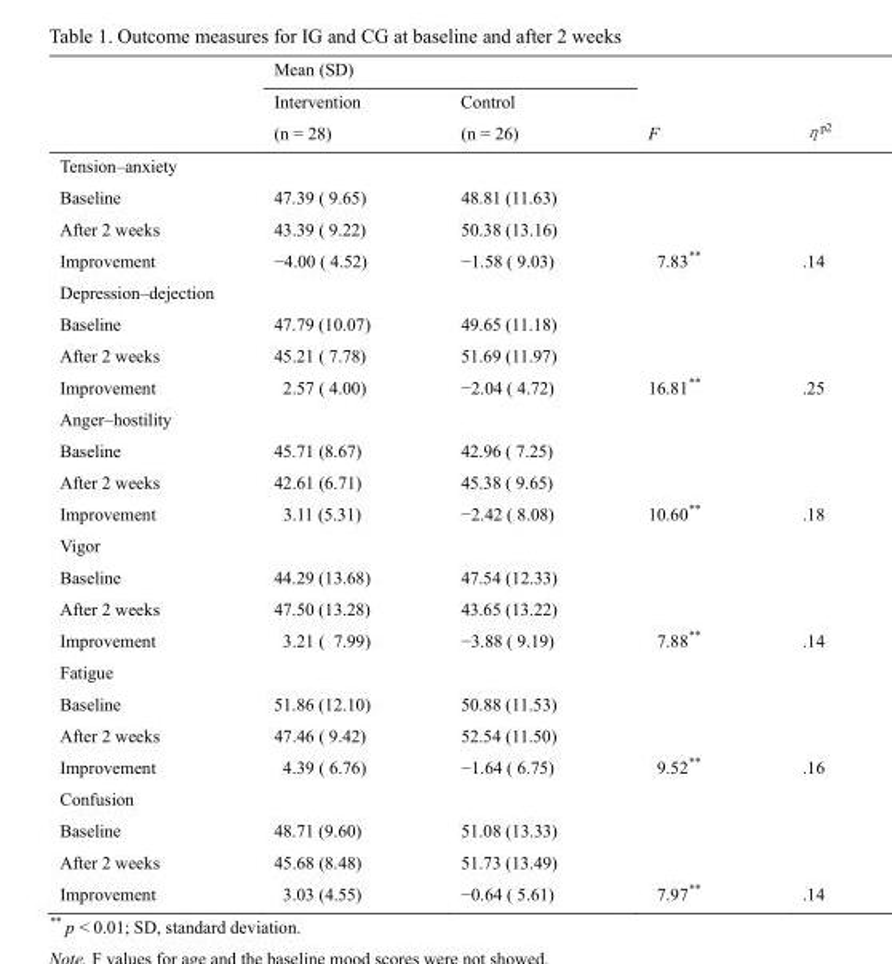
<table><thead><tr><td rowspan="2"></td><td colspan="2">Mean (SD)</td><td rowspan="2">F</td><td rowspan="2">η<sup>p2</sup></td></tr><tr><td>Intervention (n = 28)</td><td>Control (n = 26)</td></tr></thead><tbody><tr><td colspan="5">Tension–anxiety</td></tr><tr><td>Baseline</td><td>47.39 ( 9.65)</td><td>48.81 (11.63)</td><td></td><td></td></tr><tr><td>After 2 weeks</td><td>43.39 ( 9.22)</td><td>50.38 (13.16)</td><td></td><td></td></tr><tr><td>Improvement</td><td>−4.00 ( 4.52)</td><td>−1.58 ( 9.03)</td><td>7.83**</td><td>.14</td></tr><tr><td colspan="5">Depression–dejection</td></tr><tr><td>Baseline</td><td>47.79 (10.07)</td><td>49.65 (11.18)</td><td></td><td></td></tr><tr><td>After 2 weeks</td><td>45.21 ( 7.78)</td><td>51.69 (11.97)</td><td></td><td></td></tr><tr><td>Improvement</td><td>2.57 ( 4.00)</td><td>−2.04 ( 4.72)</td><td>16.81**</td><td>.25</td></tr><tr><td colspan="5">Anger–hostility</td></tr><tr><td>Baseline</td><td>45.71 (8.67)</td><td>42.96 ( 7.25)</td><td></td><td></td></tr><tr><td>After 2 weeks</td><td>42.61 (6.71)</td><td>45.38 ( 9.65)</td><td></td><td></td></tr><tr><td>Improvement</td><td>3.11 (5.31)</td><td>−2.42 ( 8.08)</td><td>10.60**</td><td>.18</td></tr><tr><td colspan="5">Vigor</td></tr><tr><td>Baseline</td><td>44.29 (13.68)</td><td>47.54 (12.33)</td><td></td><td></td></tr><tr><td>After 2 weeks</td><td>47.50 (13.28)</td><td>43.65 (13.22)</td><td></td><td></td></tr><tr><td>Improvement</td><td>3.21 ( 7.99)</td><td>−3.88 ( 9.19)</td><td>7.88**</td><td>.14</td></tr><tr><td colspan="5">Fatigue</td></tr><tr><td>Baseline</td><td>51.86 (12.10)</td><td>50.88 (11.53)</td><td></td><td></td></tr><tr><td>After 2 weeks</td><td>47.46 ( 9.42)</td><td>52.54 (11.50)</td><td></td><td></td></tr><tr><td>Improvement</td><td>4.39 ( 6.76)</td><td>−1.64 ( 6.75)</td><td>9.52**</td><td>.16</td></tr><tr><td colspan="5">Confusion</td></tr><tr><td>Baseline</td><td>48.71 (9.60)</td><td>51.08 (13.33)</td><td></td><td></td></tr><tr><td>After 2 weeks</td><td>45.68 (8.48)</td><td>51.73 (13.49)</td><td></td><td></td></tr><tr><td>Improvement</td><td>3.03 (4.55)</td><td>−0.64 ( 5.61)</td><td>7.97**</td><td>.14</td></tr></tbody></table>